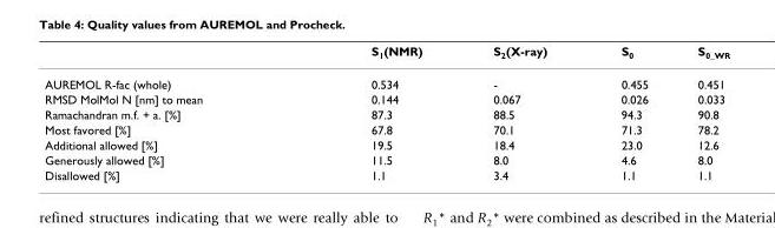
<table><thead><tr><td></td><td>S1(NMR)</td><td>S2(X-ray)</td><td>S0</td><td>S0_WR</td></tr></thead><tbody><tr><td>AUREMOL R-fac (whole)</td><td>0.534</td><td>-</td><td>0.455</td><td>0.451</td></tr><tr><td>RMSD MolMol N [nm] to mean</td><td>0.144</td><td>0.067</td><td>0.026</td><td>0.033</td></tr><tr><td>Ramachandran m.f. + a. [%]</td><td>87.3</td><td>88.5</td><td>94.3</td><td>90.8</td></tr><tr><td>Most favored [%]</td><td>67.8</td><td>70.1</td><td>71.3</td><td>78.2</td></tr><tr><td>Additional allowed [%]</td><td>19.5</td><td>18.4</td><td>23.0</td><td>12.6</td></tr><tr><td>Generously allowed [%]</td><td>11.5</td><td>8.0</td><td>4.6</td><td>8.0</td></tr><tr><td>Disallowed [%]</td><td>1.1</td><td>3.4</td><td>1.1</td><td>1.1</td></tr></tbody></table>